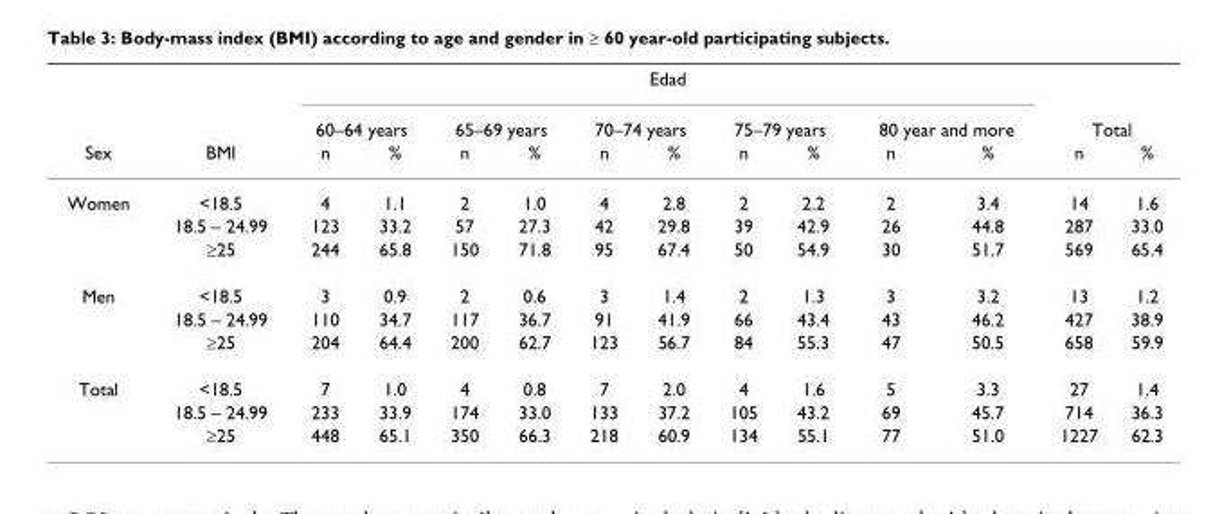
<table><thead><tr><td rowspan="3">Sex</td><td rowspan="3">BMI</td><td colspan="10">Edad</td><td></td><td></td></tr><tr><td colspan="2">60–64 years</td><td colspan="2">65–69 years</td><td colspan="2">70–74 years</td><td colspan="2">75–79 years</td><td colspan="2">80 year and more</td><td colspan="2">Total</td></tr><tr><td>n</td><td>%</td><td>n</td><td>%</td><td>n</td><td>%</td><td>n</td><td>%</td><td>n</td><td>%</td><td>n</td><td>%</td></tr></thead><tbody><tr><td rowspan="3">Women</td><td>&lt;18.5</td><td>4</td><td>1.1</td><td>2</td><td>1.0</td><td>4</td><td>2.8</td><td>2</td><td>2.2</td><td>2</td><td>3.4</td><td>14</td><td>1.6</td></tr><tr><td>18.5 – 24.99</td><td>123</td><td>33.2</td><td>57</td><td>27.3</td><td>42</td><td>29.8</td><td>39</td><td>42.9</td><td>26</td><td>44.8</td><td>287</td><td>33.0</td></tr><tr><td>≥25</td><td>244</td><td>65.8</td><td>150</td><td>71.8</td><td>95</td><td>67.4</td><td>50</td><td>54.9</td><td>30</td><td>51.7</td><td>569</td><td>65.4</td></tr><tr><td rowspan="3">Men</td><td>&lt;18.5</td><td>3</td><td>0.9</td><td>2</td><td>0.6</td><td>3</td><td>1.4</td><td>2</td><td>1.3</td><td>3</td><td>3.2</td><td>13</td><td>1.2</td></tr><tr><td>18.5 – 24.99</td><td>110</td><td>34.7</td><td>117</td><td>36.7</td><td>91</td><td>41.9</td><td>66</td><td>43.4</td><td>43</td><td>46.2</td><td>427</td><td>38.9</td></tr><tr><td>≥25</td><td>204</td><td>64.4</td><td>200</td><td>62.7</td><td>123</td><td>56.7</td><td>84</td><td>55.3</td><td>47</td><td>50.5</td><td>658</td><td>59.9</td></tr><tr><td rowspan="3">Total</td><td>&lt;18.5</td><td>7</td><td>1.0</td><td>4</td><td>0.8</td><td>7</td><td>2.0</td><td>4</td><td>1.6</td><td>5</td><td>3.3</td><td>27</td><td>1.4</td></tr><tr><td>18.5 – 24.99</td><td>233</td><td>33.9</td><td>174</td><td>33.0</td><td>133</td><td>37.2</td><td>105</td><td>43.2</td><td>69</td><td>45.7</td><td>714</td><td>36.3</td></tr><tr><td>≥25</td><td>448</td><td>65.1</td><td>350</td><td>66.3</td><td>218</td><td>60.9</td><td>134</td><td>55.1</td><td>77</td><td>51.0</td><td>1227</td><td>62.3</td></tr></tbody></table>